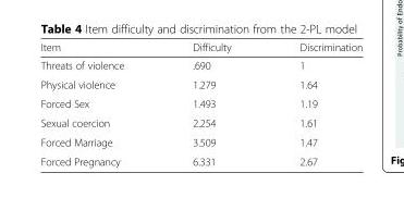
<table><thead><tr><td>Item</td><td>Difficulty</td><td>Discrimination</td></tr></thead><tbody><tr><td>Threats of violence</td><td>.690</td><td>1</td></tr><tr><td>Physical violence</td><td>1.279</td><td>1.64</td></tr><tr><td>Forced Sex</td><td>1.493</td><td>1.19</td></tr><tr><td>Sexual coercion</td><td>2.254</td><td>1.61</td></tr><tr><td>Forced Marriage</td><td>3.509</td><td>1.47</td></tr><tr><td>Forced Pregnancy</td><td>6.331</td><td>2.67</td></tr></tbody></table>